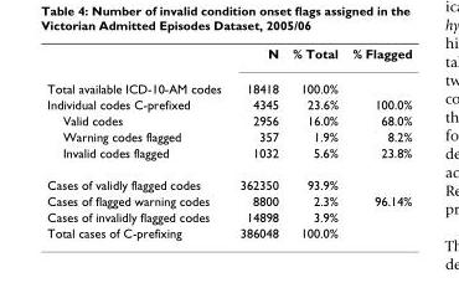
<table><thead><tr><td></td><td>N</td><td>% Total</td><td>% Flagged</td></tr></thead><tbody><tr><td>Total available ICD-10-AM codes</td><td>18418</td><td>100.0%</td><td></td></tr><tr><td>Individual codes C-prefixed</td><td>4345</td><td>23.6%</td><td>100.0%</td></tr><tr><td>Valid codes</td><td>2956</td><td>16.0%</td><td>68.0%</td></tr><tr><td>Warning codes flagged</td><td>357</td><td>1.9%</td><td>8.2%</td></tr><tr><td>Invalid codes flagged</td><td>1032</td><td>5.6%</td><td>23.8%</td></tr><tr><td>Cases of validly flagged codes</td><td>362350</td><td>93.9%</td><td></td></tr><tr><td>Cases of flagged warning codes</td><td>8800</td><td>2.3%</td><td>96.14%</td></tr><tr><td>Cases of invalidly flagged codes</td><td>14898</td><td>3.9%</td><td></td></tr><tr><td>Total cases of C-prefixing</td><td>386048</td><td>100.0%</td><td></td></tr></tbody></table>